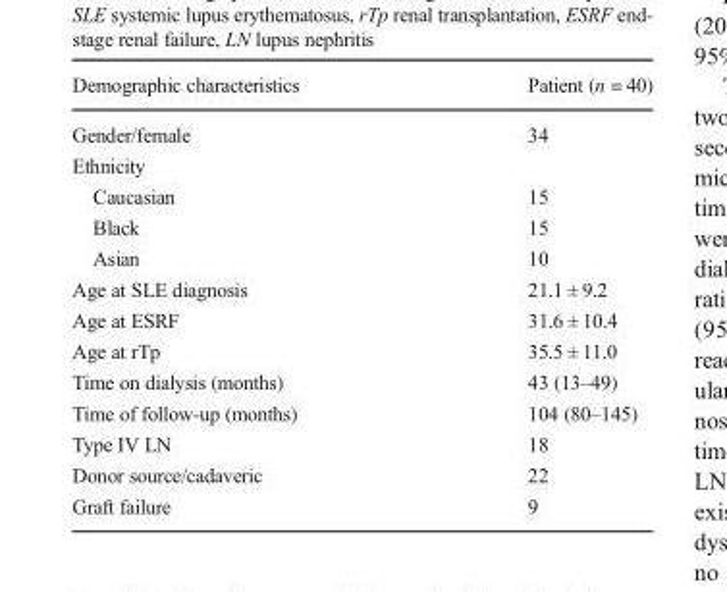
<table><thead><tr><td>Demographic characteristics</td><td>Patient (n = 40)</td></tr></thead><tbody><tr><td>Gender/female</td><td>34</td></tr><tr><td colspan="2">Ethnicity</td></tr><tr><td>Caucasian</td><td>15</td></tr><tr><td>Black</td><td>15</td></tr><tr><td>Asian</td><td>10</td></tr><tr><td>Age at SLE diagnosis</td><td>21.1 ± 9.2</td></tr><tr><td>Age at ESRF</td><td>31.6 ± 10.4</td></tr><tr><td>Age at rTp</td><td>35.5 ± 11.0</td></tr><tr><td>Time on dialysis (months)</td><td>43 (13–49)</td></tr><tr><td>Time of follow-up (months)</td><td>104 (80–145)</td></tr><tr><td>Type IV LN</td><td>18</td></tr><tr><td>Donor source/cadaveric</td><td>22</td></tr><tr><td>Graft failure</td><td>9</td></tr></tbody></table>